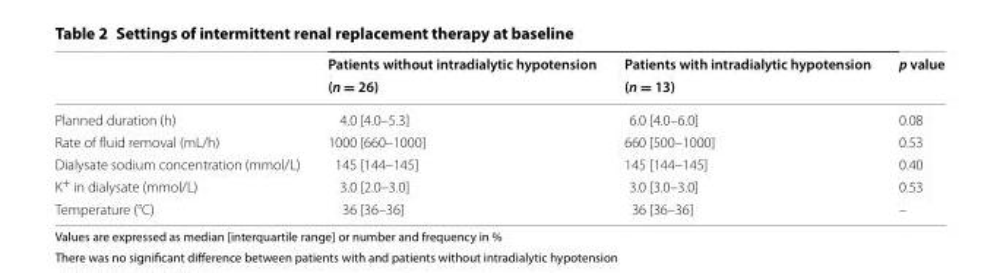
<table><thead><tr><td rowspan="2"></td><td rowspan="2">Patients without intradialytic hypotension (n = 26)</td><td rowspan="2">Patients with intradialytic hypotension (n = 13)</td><td rowspan="2">p value</td></tr><tr></tr></thead><tbody><tr><td>Planned duration (h)</td><td>4.0 [4.0–5.3]</td><td>6.0 [4.0–6.0]</td><td>0.08</td></tr><tr><td>Rate of fluid removal (mL/h)</td><td>1000 [660–1000]</td><td>660 [500–1000]</td><td>0.53</td></tr><tr><td>Dialysate sodium concentration (mmol/L)</td><td>145 [144–145]</td><td>145 [144–145]</td><td>0.40</td></tr><tr><td>K<sup>+</sup> in dialysate (mmol/L)</td><td>3.0 [2.0–3.0]</td><td>3.0 [3.0–3.0]</td><td>0.53</td></tr><tr><td>Temperature (°C)</td><td>36 [36–36]</td><td>36 [36–36]</td><td>–</td></tr></tbody></table>